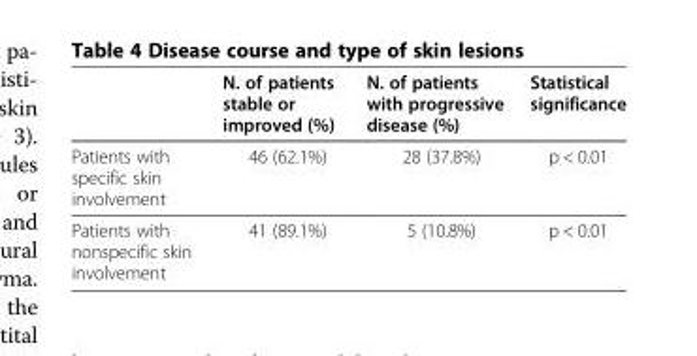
<table><thead><tr><td></td><td>N. of patients stable or improved (%)</td><td>N. of patients with progressive disease (%)</td><td>Statistical significance</td></tr></thead><tbody><tr><td>Patients with specific skin involvement</td><td>46 (62.1%)</td><td>28 (37.8%)</td><td>p &lt; 0.01</td></tr><tr><td>Patients with nonspecific skin involvement</td><td>41 (89.1%)</td><td>5 (10.8%)</td><td>p &lt; 0.01</td></tr></tbody></table>